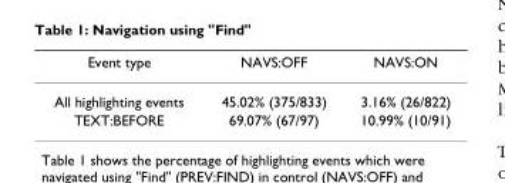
<table><thead><tr><td>Event type</td><td>NAVS:OFF</td><td>NAVS:ON</td></tr></thead><tbody><tr><td>All highlighting events</td><td>45.02% (375/833)</td><td>3.16% (26/822)</td></tr><tr><td>TEXT:BEFORE</td><td>69.07% (67/97)</td><td>10.99% (10/91)</td></tr></tbody></table>